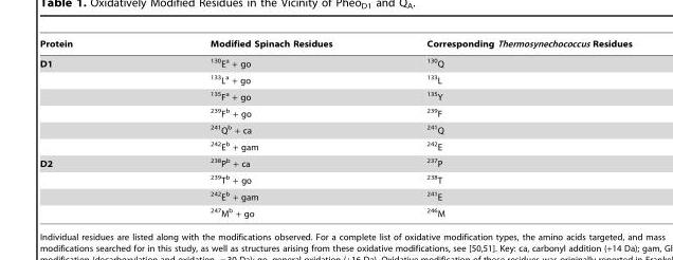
<table><thead><tr><td>Protein</td><td>Modified Spinach Residues</td><td>Corresponding Thermosynechococcus Residues</td></tr></thead><tbody><tr><td rowspan="6">D1</td><td><sup>130</sup>E<sup>a</sup> + go</td><td><sup>130</sup>Q</td></tr><tr><td><sup>133</sup>L<sup>a</sup> + go</td><td><sup>133</sup>L</td></tr><tr><td><sup>135</sup>F<sup>a</sup> + go</td><td><sup>135</sup>Y</td></tr><tr><td><sup>239</sup>F<sup>b</sup> + go</td><td><sup>239</sup>F</td></tr><tr><td><sup>241</sup>Q<sup>b</sup> + ca</td><td><sup>241</sup>Q</td></tr><tr><td><sup>242</sup>E<sup>b</sup> + gam</td><td><sup>242</sup>E</td></tr><tr><td rowspan="4">D2</td><td><sup>238</sup>P<sup>b</sup> + ca</td><td><sup>237</sup>P</td></tr><tr><td><sup>239</sup>T<sup>b</sup> + go</td><td><sup>238</sup>T</td></tr><tr><td><sup>242</sup>E<sup>b</sup> + gam</td><td><sup>241</sup>E</td></tr><tr><td><sup>247</sup>M<sup>b</sup> + go</td><td><sup>246</sup>M</td></tr></tbody></table>